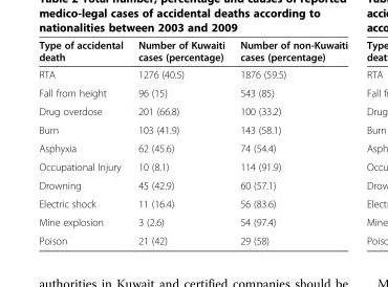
<table><thead><tr><td>Type of accidental death</td><td>Number of Kuwaiti cases (percentage)</td><td>Number of non-Kuwaiti cases (percentage)</td></tr></thead><tbody><tr><td>RTA</td><td>1276 (40.5)</td><td>1876 (59.5)</td></tr><tr><td>Fall from height</td><td>96 (15)</td><td>543 (85)</td></tr><tr><td>Drug overdose</td><td>201 (66.8)</td><td>100 (33.2)</td></tr><tr><td>Burn</td><td>103 (41.9)</td><td>143 (58.1)</td></tr><tr><td>Asphyxia</td><td>62 (45.6)</td><td>74 (54.4)</td></tr><tr><td>Occupational Injury</td><td>10 (8.1)</td><td>114 (91.9)</td></tr><tr><td>Drowning</td><td>45 (42.9)</td><td>60 (57.1)</td></tr><tr><td>Electric shock</td><td>11 (16.4)</td><td>56 (83.6)</td></tr><tr><td>Mine explosion</td><td>3 (2.6)</td><td>54 (97.4)</td></tr><tr><td>Poison</td><td>21 (42)</td><td>29 (58)</td></tr></tbody></table>